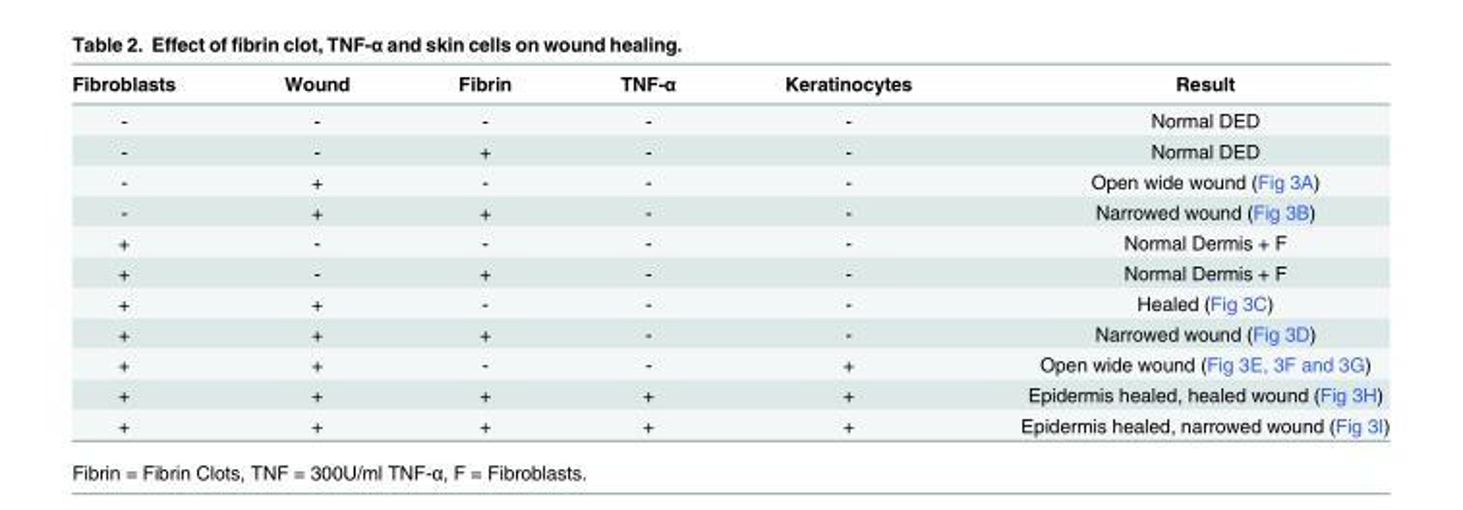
<table><thead><tr><td>Fibroblasts</td><td>Wound</td><td>Fibrin</td><td>TNF-α</td><td>Keratinocytes</td><td>Result</td></tr></thead><tbody><tr><td>-</td><td>-</td><td>-</td><td>-</td><td>-</td><td>Normal DED</td></tr><tr><td>-</td><td>-</td><td>+</td><td>-</td><td>-</td><td>Normal DED</td></tr><tr><td>-</td><td>+</td><td>-</td><td>-</td><td>-</td><td>Open wide wound (Fig 3A)</td></tr><tr><td>-</td><td>+</td><td>+</td><td>-</td><td>-</td><td>Narrowed wound (Fig 3B)</td></tr><tr><td>+</td><td>-</td><td>-</td><td>-</td><td>-</td><td>Normal Dermis + F</td></tr><tr><td>+</td><td>-</td><td>+</td><td>-</td><td>-</td><td>Normal Dermis + F</td></tr><tr><td>+</td><td>+</td><td>-</td><td>-</td><td>-</td><td>Healed (Fig 3C)</td></tr><tr><td>+</td><td>+</td><td>+</td><td>-</td><td>-</td><td>Narrowed wound (Fig 3D)</td></tr><tr><td>+</td><td>+</td><td>-</td><td>-</td><td>+</td><td>Open wide wound (Fig 3E, 3F and 3G)</td></tr><tr><td>+</td><td>+</td><td>+</td><td>+</td><td>+</td><td>Epidermis healed, healed wound (Fig 3H)</td></tr><tr><td>+</td><td>+</td><td>+</td><td>+</td><td>+</td><td>Epidermis healed, narrowed wound (Fig 3I)</td></tr></tbody></table>